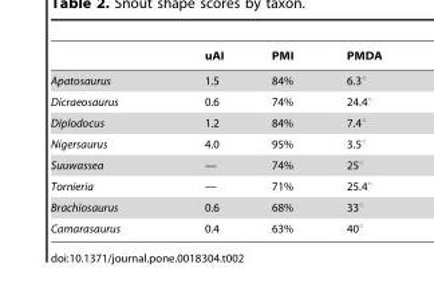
<table><thead><tr><td></td><td>uAI</td><td>PMI</td><td>PMDA</td></tr></thead><tbody><tr><td>Apatosaurus</td><td>1.5</td><td>84%</td><td>6.3°</td></tr><tr><td>Dicraeosaurus</td><td>0.6</td><td>74%</td><td>24.4°</td></tr><tr><td>Diplodocus</td><td>1.2</td><td>84%</td><td>7.4°</td></tr><tr><td>Nigersaurus</td><td>4.0</td><td>95%</td><td>3.5°</td></tr><tr><td>Suuwassea</td><td>—</td><td>74%</td><td>25°</td></tr><tr><td>Tornieria</td><td>—</td><td>71%</td><td>25.4°</td></tr><tr><td>Brachiosaurus</td><td>0.6</td><td>68%</td><td>33°</td></tr><tr><td>Camarasaurus</td><td>0.4</td><td>63%</td><td>40°</td></tr></tbody></table>